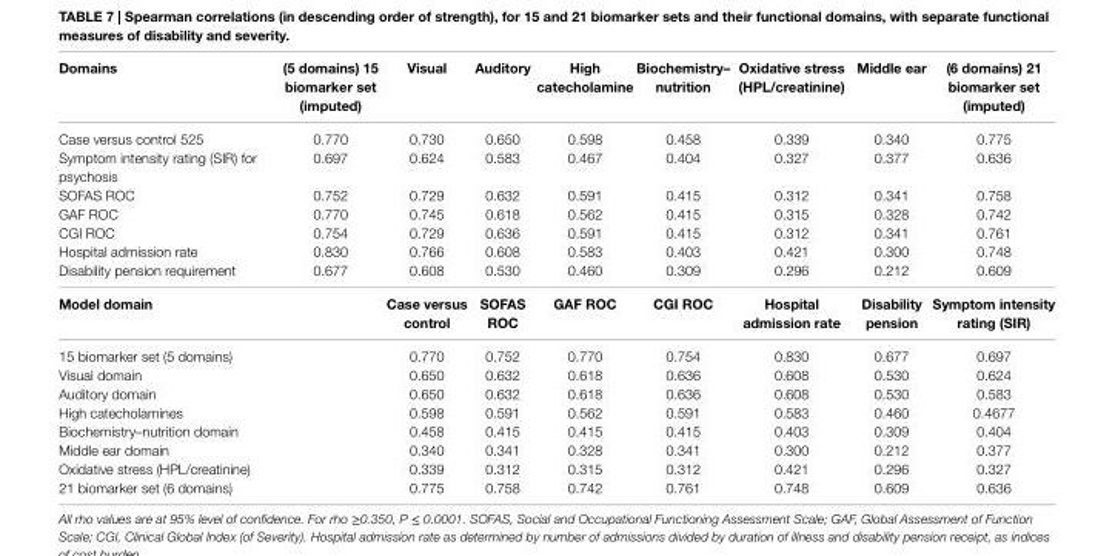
<table><thead><tr><td>Domains</td><td>(5 domains) 15 biomarker set (imputed)</td><td>Visual</td><td>auditory</td><td>high catecholamine</td><td>Biochemistry– nutrition</td><td>Oxidative stress (hPl/creatinine)</td><td>Middle ear</td><td>(6 domains) 21 biomarker set (imputed)</td></tr></thead><tbody><tr><td>Case versus control 525</td><td>0.770</td><td>0.730</td><td>0.650</td><td>0.598</td><td>0.458</td><td>0.339</td><td>0.340</td><td>0.775</td></tr><tr><td>Symptom intensity rating (SIR) for psychosis</td><td>0.697</td><td>0.624</td><td>0.583</td><td>0.467</td><td>0.404</td><td>0.327</td><td>0.377</td><td>0.636</td></tr><tr><td>SOFAS ROC</td><td>0.752</td><td>0.729</td><td>0.632</td><td>0.591</td><td>0.415</td><td>0.312</td><td>0.341</td><td>0.758</td></tr><tr><td>GAF ROC</td><td>0.770</td><td>0.745</td><td>0.618</td><td>0.562</td><td>0.415</td><td>0.315</td><td>0.328</td><td>0.742</td></tr><tr><td>CGI ROC</td><td>0.754</td><td>0.729</td><td>0.636</td><td>0.591</td><td>0.415</td><td>0.312</td><td>0.341</td><td>0.761</td></tr><tr><td>Hospital admission rate</td><td>0.830</td><td>0.766</td><td>0.608</td><td>0.583</td><td>0.403</td><td>0.421</td><td>0.300</td><td>0.748</td></tr><tr><td>Disability pension requirement</td><td>0.677</td><td>0.608</td><td>0.530</td><td>0.460</td><td>0.309</td><td>0.296</td><td>0.212</td><td>0.609</td></tr><tr><td>Model domain</td><td></td><td>case versus control</td><td>sOFas rOc</td><td>gaF rOc</td><td>cgi rOc</td><td>hospital admission rate</td><td>Disability pension</td><td>symptom intensity rating (sir)</td></tr><tr><td>15 biomarker set (5 domains)</td><td></td><td>0.770</td><td>0.752</td><td>0.770</td><td>0.754</td><td>0.830</td><td>0.677</td><td>0.697</td></tr><tr><td>Visual domain</td><td></td><td>0.650</td><td>0.632</td><td>0.618</td><td>0.636</td><td>0.608</td><td>0.530</td><td>0.624</td></tr><tr><td>Auditory domain</td><td></td><td>0.650</td><td>0.632</td><td>0.618</td><td>0.636</td><td>0.608</td><td>0.530</td><td>0.583</td></tr><tr><td>High catecholamines</td><td></td><td>0.598</td><td>0.591</td><td>0.562</td><td>0.591</td><td>0.583</td><td>0.460</td><td>0.4677</td></tr><tr><td>Biochemistry–nutrition domain</td><td></td><td>0.458</td><td>0.415</td><td>0.415</td><td>0.415</td><td>0.403</td><td>0.309</td><td>0.404</td></tr><tr><td>Middle ear domain</td><td></td><td>0.340</td><td>0.341</td><td>0.328</td><td>0.341</td><td>0.300</td><td>0.212</td><td>0.377</td></tr><tr><td>Oxidative stress (HPL/creatinine)</td><td></td><td>0.339</td><td>0.312</td><td>0.315</td><td>0.312</td><td>0.421</td><td>0.296</td><td>0.327</td></tr><tr><td>21 biomarker set (6 domains)</td><td></td><td>0.775</td><td>0.758</td><td>0.742</td><td>0.761</td><td>0.748</td><td>0.609</td><td>0.636</td></tr></tbody></table>